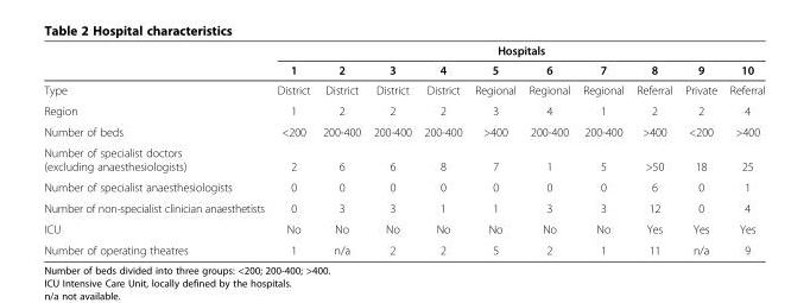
<table><thead><tr><td rowspan="2"></td><td colspan="10">Hospitals</td></tr><tr><td>1</td><td>2</td><td>3</td><td>4</td><td>5</td><td>6</td><td>7</td><td>8</td><td>9</td><td>10</td></tr></thead><tbody><tr><td>Type</td><td>District</td><td>District</td><td>District</td><td>District</td><td>Regional</td><td>Regional</td><td>Regional</td><td>Referral</td><td>Private</td><td>Referral</td></tr><tr><td>Region</td><td>1</td><td>2</td><td>2</td><td>2</td><td>3</td><td>4</td><td>1</td><td>2</td><td>2</td><td>4</td></tr><tr><td>Number of beds</td><td>&lt;200</td><td>200-400</td><td>200-400</td><td>200-400</td><td>&gt;400</td><td>200-400</td><td>200-400</td><td>&gt;400</td><td>&lt;200</td><td>&gt;400</td></tr><tr><td>Number of specialist doctors (excluding anaesthesiologists)</td><td>2</td><td>6</td><td>6</td><td>8</td><td>7</td><td>1</td><td>5</td><td>&gt;50</td><td>18</td><td>25</td></tr><tr><td>Number of specialist anaesthesiologists</td><td>0</td><td>0</td><td>0</td><td>0</td><td>0</td><td>0</td><td>0</td><td>6</td><td>0</td><td>1</td></tr><tr><td>Number of non-specialist clinician anaesthetists</td><td>0</td><td>3</td><td>3</td><td>1</td><td>1</td><td>3</td><td>3</td><td>12</td><td>0</td><td>4</td></tr><tr><td>ICU</td><td>No</td><td>No</td><td>No</td><td>No</td><td>No</td><td>No</td><td>No</td><td>Yes</td><td>Yes</td><td>Yes</td></tr><tr><td>Number of operating theatres</td><td>1</td><td>n/a</td><td>2</td><td>2</td><td>5</td><td>2</td><td>1</td><td>11</td><td>n/a</td><td>9</td></tr></tbody></table>